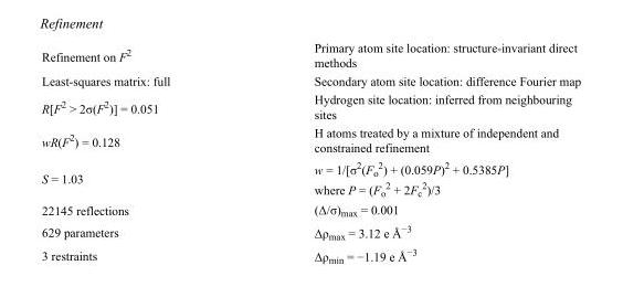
<table><tbody><tr><td>Refinement on F<sup>2</sup></td><td>Primary atom site location: structure-invariant direct methods</td></tr><tr><td>Least-squares matrix: full</td><td>Secondary atom site location: difference Fourier map</td></tr><tr><td>R[F<sup>2</sup> &gt; 2σ(F<sup>2</sup>)] = 0.051</td><td>Hydrogen site location: inferred from neighbouring sites</td></tr><tr><td>wR(F<sup>2</sup>) = 0.128</td><td>H atoms treated by a mixture of independent and constrained refinement</td></tr><tr><td>S = 1.03</td><td>w = 1/[σ<sup>2</sup>(F<sub>o</sub> <sup>2</sup>) + (0.059P)<sup>2</sup> + 0.5385P] where P = (F<sub>o</sub> <sup>2</sup> + 2F<sub>c</sub> <sup>2</sup>)/3</td></tr><tr><td>22145 reflections</td><td>(Δ/σ)<sub>max</sub> = 0.001</td></tr><tr><td>629 parameters</td><td>Δρ<sub>max</sub> = 3.12 e Å<sup>−3</sup></td></tr><tr><td>3 restraints</td><td>Δρ<sub>min</sub> = −1.19 e Å<sup>−3</sup></td></tr></tbody></table>